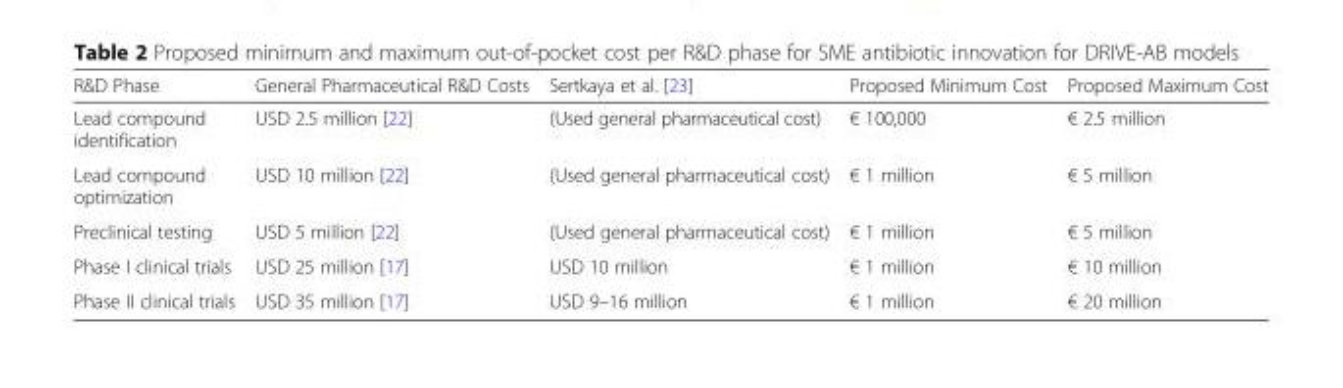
<table><thead><tr><td>R&amp;D Phase</td><td>General Pharmaceutical R&amp;D Costs</td><td>Sertkaya et al. [23]</td><td>Proposed Minimum Cost</td><td>Proposed Maximum Cost</td></tr></thead><tbody><tr><td>Lead compound identification</td><td>USD 2.5 million [22]</td><td>(Used general pharmaceutical cost)</td><td>€ 100,000</td><td>€ 2.5 million</td></tr><tr><td>Lead compound optimization</td><td>USD 10 million [22]</td><td>(Used general pharmaceutical cost)</td><td>€ 1 million</td><td>€ 5 million</td></tr><tr><td>Preclinical testing</td><td>USD 5 million [22]</td><td>(Used general pharmaceutical cost)</td><td>€ 1 million</td><td>€ 5 million</td></tr><tr><td>Phase I clinical trials</td><td>USD 25 million [17]</td><td>USD 10 million</td><td>€ 1 million</td><td>€ 10 million</td></tr><tr><td>Phase II clinical trials</td><td>USD 35 million [17]</td><td>USD 9–16 million</td><td>€ 1 million</td><td>€ 20 million</td></tr></tbody></table>